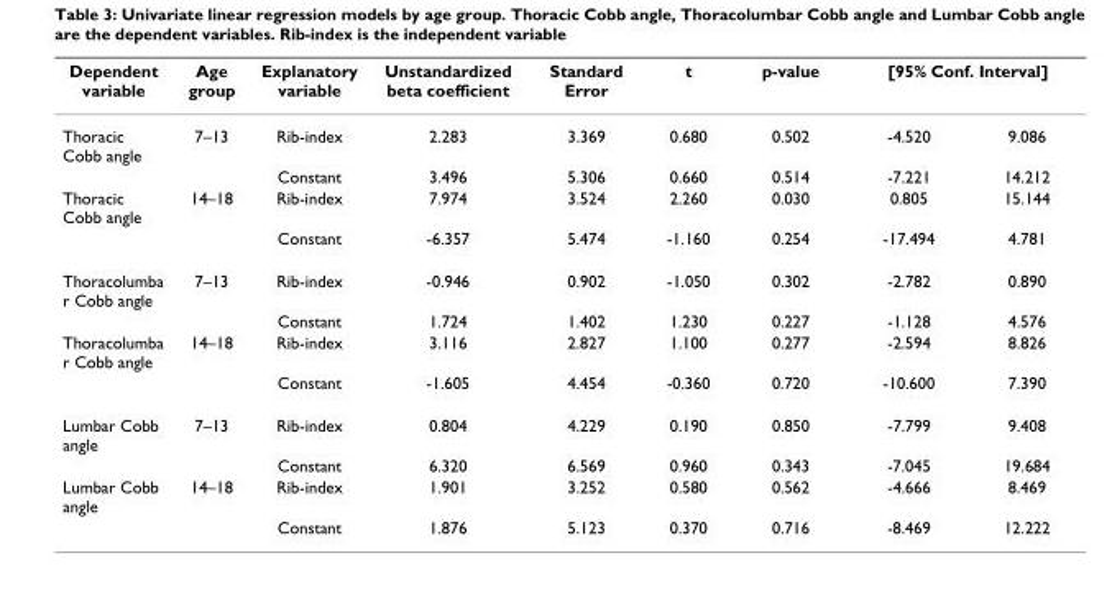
<table><thead><tr><td rowspan="2">Dependent variable Thoracic Cobb angle</td><td rowspan="2">Age group 7–13</td><td rowspan="2">Explanatory variable Rib-index</td><td rowspan="2">Unstandardized beta coefficient 2.283</td><td rowspan="2">Standard Error 3.369</td><td rowspan="2">t 0.680</td><td rowspan="2">p-value 0.502</td><td colspan="2">[95% Conf. Interval]</td></tr><tr><td>-4.520</td><td>9.086</td></tr></thead><tbody><tr><td></td><td></td><td>Constant</td><td>3.496</td><td>5.306</td><td>0.660</td><td>0.514</td><td>-7.221</td><td>14.212</td></tr><tr><td rowspan="2">Thoracic Cobb angle</td><td>14–18</td><td>Rib-index</td><td>7.974</td><td>3.524</td><td>2.260</td><td>0.030</td><td>0.805</td><td>15.144</td></tr><tr><td></td><td>Constant</td><td>-6.357</td><td>5.474</td><td>-1.160</td><td>0.254</td><td>-17.494</td><td>4.781</td></tr><tr><td rowspan="2">Thoracolumba r Cobb angle</td><td>7–13</td><td>Rib-index</td><td>-0.946</td><td>0.902</td><td>-1.050</td><td>0.302</td><td>-2.782</td><td>0.890</td></tr><tr><td></td><td>Constant</td><td>1.724</td><td>1.402</td><td>1.230</td><td>0.227</td><td>-1.128</td><td>4.576</td></tr><tr><td rowspan="2">Thoracolumba r Cobb angle</td><td>14–18</td><td>Rib-index</td><td>3.116</td><td>2.827</td><td>1.100</td><td>0.277</td><td>-2.594</td><td>8.826</td></tr><tr><td></td><td>Constant</td><td>-1.605</td><td>4.454</td><td>-0.360</td><td>0.720</td><td>-10.600</td><td>7.390</td></tr><tr><td rowspan="2">Lumbar Cobb angle</td><td>7–13</td><td>Rib-index</td><td>0.804</td><td>4.229</td><td>0.190</td><td>0.850</td><td>-7.799</td><td>9.408</td></tr><tr><td></td><td>Constant</td><td>6.320</td><td>6.569</td><td>0.960</td><td>0.343</td><td>-7.045</td><td>19.684</td></tr><tr><td rowspan="2">Lumbar Cobb angle</td><td>14–18</td><td>Rib-index</td><td>1.901</td><td>3.252</td><td>0.580</td><td>0.562</td><td>-4.666</td><td>8.469</td></tr><tr><td></td><td>Constant</td><td>1.876</td><td>5.123</td><td>0.370</td><td>0.716</td><td>-8.469</td><td>12.222</td></tr></tbody></table>